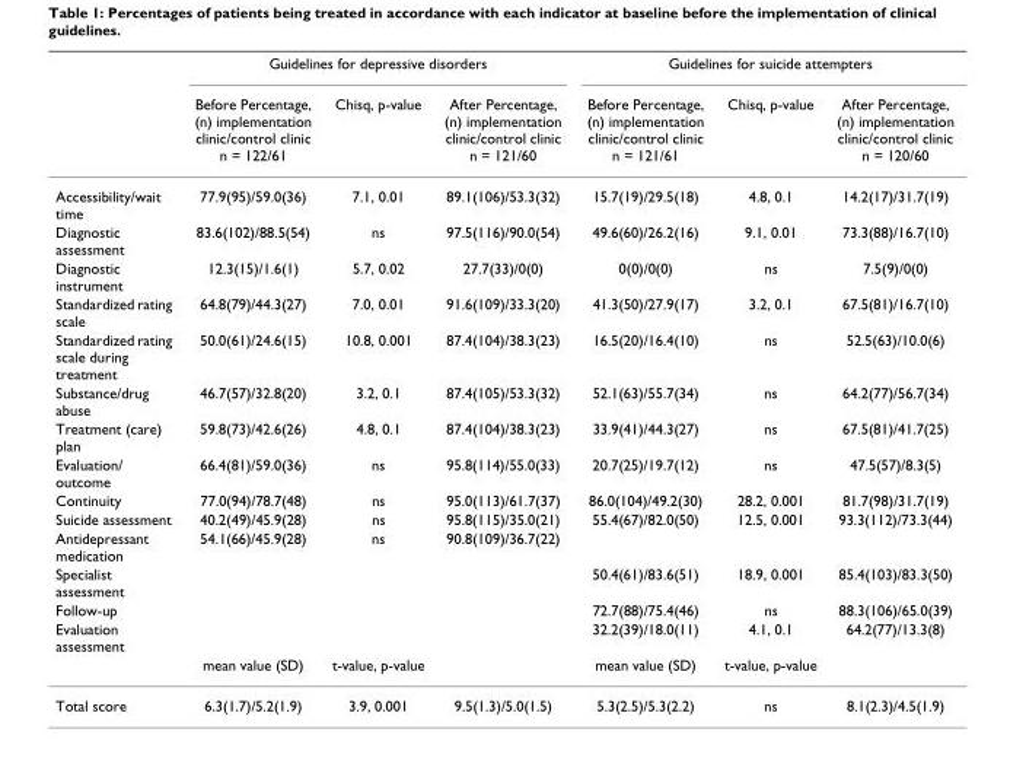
<table><thead><tr><td rowspan="2"></td><td colspan="3">Guidelines for depressive disorders</td><td colspan="3">Guidelines for suicide attempters</td></tr><tr><td>Before Percentage, (n) implementation clinic/control clinic n = 122/61</td><td>Chisq, p-value</td><td>After Percentage, (n) implementation clinic/control clinic n = 121/60</td><td>Before Percentage, (n) implementation clinic/control clinic n = 121/61</td><td>Chisq, p-value</td><td>After Percentage, (n) implementation clinic/control clinic n = 120/60</td></tr></thead><tbody><tr><td>Accessibility/wait time</td><td>77.9(95)/59.0(36)</td><td>7.1, 0.01</td><td>89.1(106)/53.3(32)</td><td>15.7(19)/29.5(18)</td><td>4.8, 0.1</td><td>14.2(17)/31.7(19)</td></tr><tr><td>Diagnostic assessment</td><td>83.6(102)/88.5(54)</td><td>ns</td><td>97.5(116)/90.0(54)</td><td>49.6(60)/26.2(16)</td><td>9.1, 0.01</td><td>73.3(88)/16.7(10)</td></tr><tr><td>Diagnostic instrument</td><td>12.3(15)/1.6(1)</td><td>5.7, 0.02</td><td>27.7(33)/0(0)</td><td>0(0)/0(0)</td><td>ns</td><td>7.5(9)/0(0)</td></tr><tr><td>Standardized rating scale</td><td>64.8(79)/44.3(27)</td><td>7.0, 0.01</td><td>91.6(109)/33.3(20)</td><td>41.3(50)/27.9(17)</td><td>3.2, 0.1</td><td>67.5(81)/16.7(10)</td></tr><tr><td>Standardized rating scale during treatment</td><td>50.0(61)/24.6(15)</td><td>10.8, 0.001</td><td>87.4(104)/38.3(23)</td><td>16.5(20)/16.4(10)</td><td>ns</td><td>52.5(63)/10.0(6)</td></tr><tr><td>Substance/drug abuse</td><td>46.7(57)/32.8(20)</td><td>3.2, 0.1</td><td>87.4(105)/53.3(32)</td><td>52.1(63)/55.7(34)</td><td>ns</td><td>64.2(77)/56.7(34)</td></tr><tr><td>Treatment (care) plan</td><td>59.8(73)/42.6(26)</td><td>4.8, 0.1</td><td>87.4(104)/38.3(23)</td><td>33.9(41)/44.3(27)</td><td>ns</td><td>67.5(81)/41.7(25)</td></tr><tr><td>Evaluation/ outcome</td><td>66.4(81)/59.0(36)</td><td>ns</td><td>95.8(114)/55.0(33)</td><td>20.7(25)/19.7(12)</td><td>ns</td><td>47.5(57)/8.3(5)</td></tr><tr><td>Continuity</td><td>77.0(94)/78.7(48)</td><td>ns</td><td>95.0(113)/61.7(37)</td><td>86.0(104)/49.2(30)</td><td>28.2, 0.001</td><td>81.7(98)/31.7(19)</td></tr><tr><td>Suicide assessment</td><td>40.2(49)/45.9(28)</td><td>ns</td><td>95.8(115)/35.0(21)</td><td>55.4(67)/82.0(50)</td><td>12.5, 0.001</td><td>93.3(112)/73.3(44)</td></tr><tr><td>Antidepressant medication</td><td>54.1(66)/45.9(28)</td><td>ns</td><td>90.8(109)/36.7(22)</td><td></td><td></td><td></td></tr><tr><td>Specialist assessment</td><td></td><td></td><td></td><td>50.4(61)/83.6(51)</td><td>18.9, 0.001</td><td>85.4(103)/83.3(50)</td></tr><tr><td>Follow-up</td><td></td><td></td><td></td><td>72.7(88)/75.4(46)</td><td>ns</td><td>88.3(106)/65.0(39)</td></tr><tr><td rowspan="2">Evaluation assessment</td><td></td><td></td><td></td><td>32.2(39)/18.0(11)</td><td>4.1, 0.1</td><td>64.2(77)/13.3(8)</td></tr><tr><td>mean value (SD)</td><td>t-value, p-value</td><td></td><td>mean value (SD)</td><td>t-value, p-value</td><td></td></tr><tr><td>Total score</td><td>6.3(1.7)/5.2(1.9)</td><td>3.9, 0.001</td><td>9.5(1.3)/5.0(1.5)</td><td>5.3(2.5)/5.3(2.2)</td><td>ns</td><td>8.1(2.3)/4.5(1.9)</td></tr></tbody></table>